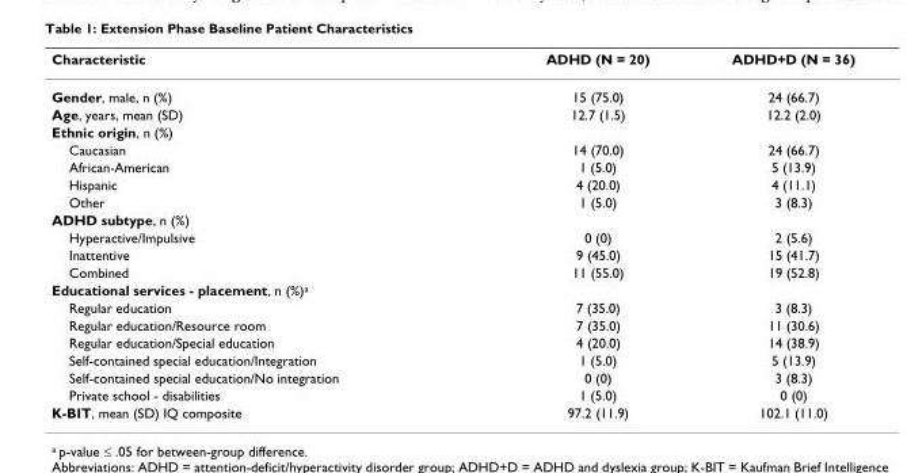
<table><thead><tr><td>Characteristic</td><td>ADHD (N = 20)</td><td>ADHD+D (N = 36)</td></tr></thead><tbody><tr><td>Gender, male, n (%)</td><td>15 (75.0)</td><td>24 (66.7)</td></tr><tr><td>Age, years, mean (SD)</td><td>12.7 (1.5)</td><td>12.2 (2.0)</td></tr><tr><td colspan="3">Ethnic origin, n (%)</td></tr><tr><td>Caucasian</td><td>14 (70.0)</td><td>24 (66.7)</td></tr><tr><td>African-American</td><td>1 (5.0)</td><td>5 (13.9)</td></tr><tr><td>Hispanic</td><td>4 (20.0)</td><td>4 (11.1)</td></tr><tr><td>Other</td><td>1 (5.0)</td><td>3 (8.3)</td></tr><tr><td colspan="3">ADHD subtype, n (%)</td></tr><tr><td>Hyperactive/Impulsive</td><td>0 (0)</td><td>2 (5.6)</td></tr><tr><td>Inattentive</td><td>9 (45.0)</td><td>15 (41.7)</td></tr><tr><td>Combined</td><td>11 (55.0)</td><td>19 (52.8)</td></tr><tr><td colspan="3">Educational services - placement, n (%)<sup>a</sup></td></tr><tr><td>Regular education</td><td>7 (35.0)</td><td>3 (8.3)</td></tr><tr><td>Regular education/Resource room</td><td>7 (35.0)</td><td>11 (30.6)</td></tr><tr><td>Regular education/Special education</td><td>4 (20.0)</td><td>14 (38.9)</td></tr><tr><td>Self-contained special education/Integration</td><td>1 (5.0)</td><td>5 (13.9)</td></tr><tr><td>Self-contained special education/No integration</td><td>0 (0)</td><td>3 (8.3)</td></tr><tr><td>Private school - disabilities</td><td>1 (5.0)</td><td>0 (0)</td></tr><tr><td>K-BIT, mean (SD) IQ composite</td><td>97.2 (11.9)</td><td>102.1 (11.0)</td></tr></tbody></table>